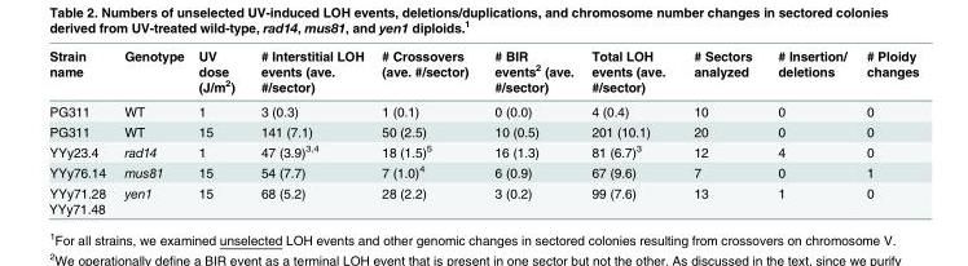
<table><thead><tr><td>Strain name</td><td>Genotype</td><td>UV dose (J/m<sup>2</sup>)</td><td># Interstitial LOH events (ave. #/sector)</td><td># Crossovers (ave. #/sector)</td><td># BIR events<sup>2</sup> (ave. #/sector)</td><td>Total LOH events (ave. #/sector)</td><td># Sectors analyzed</td><td># Insertion/ deletions</td><td># Ploidy changes</td></tr></thead><tbody><tr><td>PG311</td><td>WT</td><td>1</td><td>3 (0.3)</td><td>1 (0.1)</td><td>0 (0.0)</td><td>4 (0.4)</td><td>10</td><td>0</td><td>0</td></tr><tr><td>PG311</td><td>WT</td><td>15</td><td>141 (7.1)</td><td>50 (2.5)</td><td>10 (0.5)</td><td>201 (10.1)</td><td>20</td><td>0</td><td>0</td></tr><tr><td>YYy23.4</td><td>rad14</td><td>1</td><td>47 (3.9)<sup>3,4</sup></td><td>18 (1.5)<sup>5</sup></td><td>16 (1.3)</td><td>81 (6.7)<sup>3</sup></td><td>12</td><td>4</td><td>0</td></tr><tr><td>YYy76.14</td><td>mus81</td><td>15</td><td>54 (7.7)</td><td>7 (1.0)<sup>4</sup></td><td>6 (0.9)</td><td>67 (9.6)</td><td>7</td><td>0</td><td>1</td></tr><tr><td>YYy71.28 YYy71.48</td><td>yen1</td><td>15</td><td>68 (5.2)</td><td>28 (2.2)</td><td>3 (0.2)</td><td>99 (7.6)</td><td>13</td><td>1</td><td>0</td></tr></tbody></table>